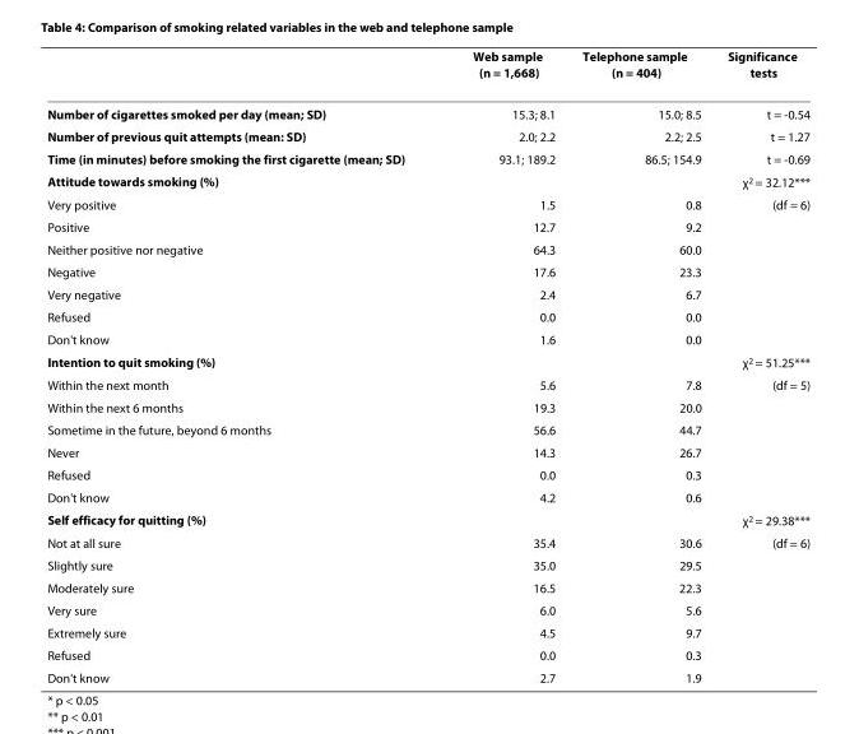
<table><thead><tr><td></td><td>Web sample (n = 1,668)</td><td>Telephone sample (n = 404)</td><td>Significance tests</td></tr></thead><tbody><tr><td>Number of cigarettes smoked per day (mean; SD)</td><td>15.3; 8.1</td><td>15.0; 8.5</td><td>t = -0.54</td></tr><tr><td>Number of previous quit attempts (mean: SD)</td><td>2.0; 2.2</td><td>2.2; 2.5</td><td>t = 1.27</td></tr><tr><td>Time (in minutes) before smoking the first cigarette (mean; SD)</td><td>93.1; 189.2</td><td>86.5; 154.9</td><td>t = -0.69</td></tr><tr><td>Attitude towards smoking (%)</td><td></td><td></td><td>χ<sup>2</sup> = 32.12***</td></tr><tr><td>Very positive</td><td>1.5</td><td>0.8</td><td>(df = 6)</td></tr><tr><td>Positive</td><td>12.7</td><td>9.2</td><td></td></tr><tr><td>Neither positive nor negative</td><td>64.3</td><td>60.0</td><td></td></tr><tr><td>Negative</td><td>17.6</td><td>23.3</td><td></td></tr><tr><td>Very negative</td><td>2.4</td><td>6.7</td><td></td></tr><tr><td>Refused</td><td>0.0</td><td>0.0</td><td></td></tr><tr><td>Don&#x27;t know</td><td>1.6</td><td>0.0</td><td></td></tr><tr><td>Intention to quit smoking (%)</td><td></td><td></td><td>χ<sup>2</sup> = 51.25***</td></tr><tr><td>Within the next month</td><td>5.6</td><td>7.8</td><td>(df = 5)</td></tr><tr><td>Within the next 6 months</td><td>19.3</td><td>20.0</td><td></td></tr><tr><td>Sometime in the future, beyond 6 months</td><td>56.6</td><td>44.7</td><td></td></tr><tr><td>Never</td><td>14.3</td><td>26.7</td><td></td></tr><tr><td>Refused</td><td>0.0</td><td>0.3</td><td></td></tr><tr><td>Don&#x27;t know</td><td>4.2</td><td>0.6</td><td></td></tr><tr><td>Self efficacy for quitting (%)</td><td></td><td></td><td>χ<sup>2</sup> = 29.38***</td></tr><tr><td>Not at all sure</td><td>35.4</td><td>30.6</td><td>(df = 6)</td></tr><tr><td>Slightly sure</td><td>35.0</td><td>29.5</td><td></td></tr><tr><td>Moderately sure</td><td>16.5</td><td>22.3</td><td></td></tr><tr><td>Very sure</td><td>6.0</td><td>5.6</td><td></td></tr><tr><td>Extremely sure</td><td>4.5</td><td>9.7</td><td></td></tr><tr><td>Refused</td><td>0.0</td><td>0.3</td><td></td></tr><tr><td>Don&#x27;t know</td><td>2.7</td><td>1.9</td><td></td></tr></tbody></table>